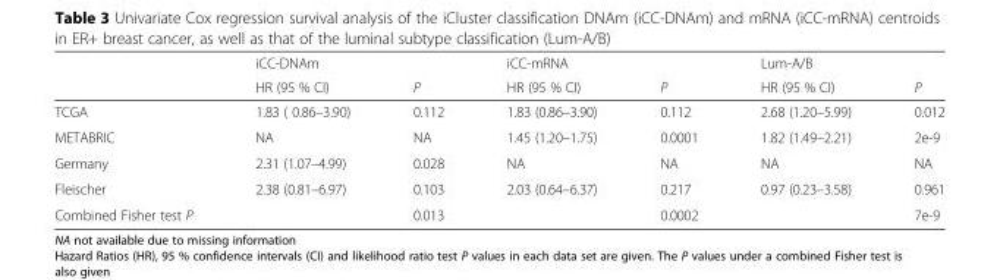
<table><thead><tr><td rowspan="2"></td><td rowspan="2">iCC-DNAm HR (95 % CI)</td><td rowspan="2">P</td><td rowspan="2">iCC-mRNA HR (95 % CI)</td><td rowspan="2">P</td><td rowspan="2">Lum-A/B HR (95 % CI)</td><td rowspan="2">P</td></tr><tr></tr></thead><tbody><tr><td>TCGA</td><td>1.83 ( 0.86–3.90)</td><td>0.112</td><td>1.83 (0.86–3.90)</td><td>0.112</td><td>2.68 (1.20–5.99)</td><td>0.012</td></tr><tr><td>METABRIC</td><td>NA</td><td>NA</td><td>1.45 (1.20–1.75)</td><td>0.0001</td><td>1.82 (1.49–2.21)</td><td>2e-9</td></tr><tr><td>Germany</td><td>2.31 (1.07–4.99)</td><td>0.028</td><td>NA</td><td>NA</td><td>NA</td><td>NA</td></tr><tr><td>Fleischer</td><td>2.38 (0.81–6.97)</td><td>0.103</td><td>2.03 (0.64–6.37)</td><td>0.217</td><td>0.97 (0.23–3.58)</td><td>0.961</td></tr><tr><td>Combined Fisher test P</td><td></td><td>0.013</td><td></td><td>0.0002</td><td></td><td>7e-9</td></tr></tbody></table>